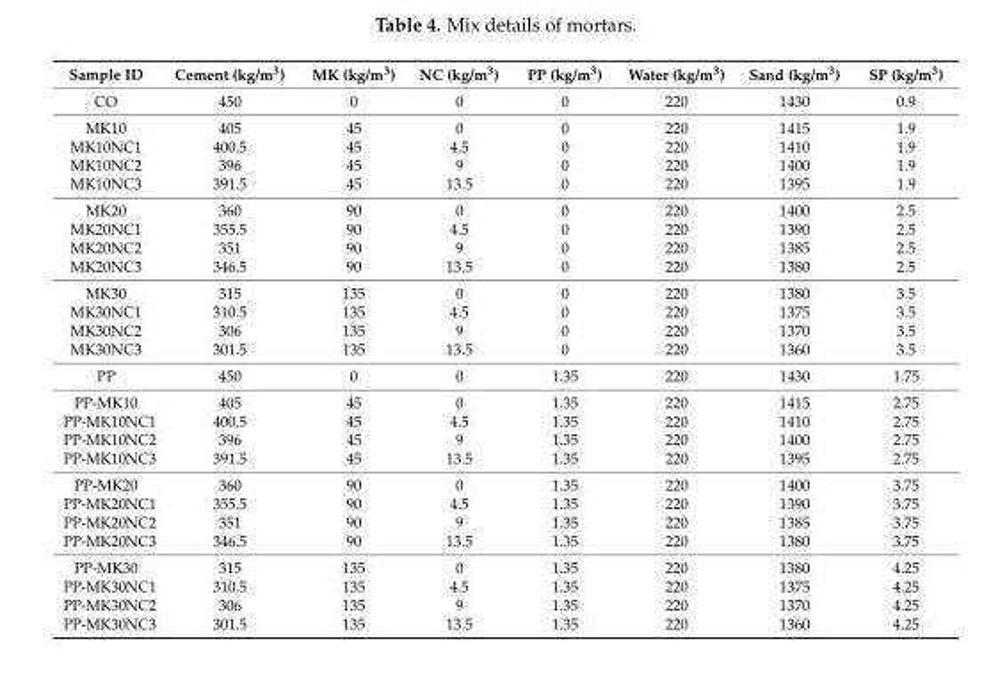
<table><thead><tr><td>Sample ID</td><td>Cement (kg/m<sup>3</sup>)</td><td>MK (kg/m<sup>3</sup>)</td><td>NC (kg/m<sup>3</sup>)</td><td>PP (kg/m<sup>3</sup>)</td><td>Water (kg/m<sup>3</sup>)</td><td>Sand (kg/m<sup>3</sup>)</td><td>SP (kg/m<sup>3</sup>)</td></tr></thead><tbody><tr><td>CO</td><td>450</td><td>0</td><td>0</td><td>0</td><td>220</td><td>1430</td><td>0.9</td></tr><tr><td>MK10</td><td>405</td><td>45</td><td>0</td><td>0</td><td>220</td><td>1415</td><td>1.9</td></tr><tr><td>MK10NC1</td><td>400.5</td><td>45</td><td>4.5</td><td>0</td><td>220</td><td>1410</td><td>1.9</td></tr><tr><td>MK10NC2</td><td>396</td><td>45</td><td>9</td><td>0</td><td>220</td><td>1400</td><td>1.9</td></tr><tr><td>MK10NC3</td><td>391.5</td><td>45</td><td>13.5</td><td>0</td><td>220</td><td>1395</td><td>1.9</td></tr><tr><td>MK20</td><td>360</td><td>90</td><td>0</td><td>0</td><td>220</td><td>1400</td><td>2.5</td></tr><tr><td>MK20NC1</td><td>355.5</td><td>90</td><td>4.5</td><td>0</td><td>220</td><td>1390</td><td>2.5</td></tr><tr><td>MK20NC2</td><td>351</td><td>90</td><td>9</td><td>0</td><td>220</td><td>1385</td><td>2.5</td></tr><tr><td>MK20NC3</td><td>346.5</td><td>90</td><td>13.5</td><td>0</td><td>220</td><td>1380</td><td>2.5</td></tr><tr><td>MK30</td><td>315</td><td>135</td><td>0</td><td>0</td><td>220</td><td>1380</td><td>3.5</td></tr><tr><td>MK30NC1</td><td>310.5</td><td>135</td><td>4.5</td><td>0</td><td>220</td><td>1375</td><td>3.5</td></tr><tr><td>MK30NC2</td><td>306</td><td>135</td><td>9</td><td>0</td><td>220</td><td>1370</td><td>3.5</td></tr><tr><td>MK30NC3</td><td>301.5</td><td>135</td><td>13.5</td><td>0</td><td>220</td><td>1360</td><td>3.5</td></tr><tr><td>PP</td><td>450</td><td>0</td><td>0</td><td>1.35</td><td>220</td><td>1430</td><td>1.75</td></tr><tr><td>PP-MK10</td><td>405</td><td>45</td><td>0</td><td>1.35</td><td>220</td><td>1415</td><td>2.75</td></tr><tr><td>PP-MK10NC1</td><td>400.5</td><td>45</td><td>4.5</td><td>1.35</td><td>220</td><td>1410</td><td>2.75</td></tr><tr><td>PP-MK10NC2</td><td>396</td><td>45</td><td>9</td><td>1.35</td><td>220</td><td>1400</td><td>2.75</td></tr><tr><td>PP-MK10NC3</td><td>391.5</td><td>45</td><td>13.5</td><td>1.35</td><td>220</td><td>1395</td><td>2.75</td></tr><tr><td>PP-MK20</td><td>360</td><td>90</td><td>0</td><td>1.35</td><td>220</td><td>1400</td><td>3.75</td></tr><tr><td>PP-MK20NC1</td><td>355.5</td><td>90</td><td>4.5</td><td>1.35</td><td>220</td><td>1390</td><td>3.75</td></tr><tr><td>PP-MK20NC2</td><td>351</td><td>90</td><td>9</td><td>1.35</td><td>220</td><td>1385</td><td>3.75</td></tr><tr><td>PP-MK20NC3</td><td>346.5</td><td>90</td><td>13.5</td><td>1.35</td><td>220</td><td>1380</td><td>3.75</td></tr><tr><td>PP-MK30</td><td>315</td><td>135</td><td>0</td><td>1.35</td><td>220</td><td>1380</td><td>4.25</td></tr><tr><td>PP-MK30NC1</td><td>310.5</td><td>135</td><td>4.5</td><td>1.35</td><td>220</td><td>1375</td><td>4.25</td></tr><tr><td>PP-MK30NC2</td><td>306</td><td>135</td><td>9</td><td>1.35</td><td>220</td><td>1370</td><td>4.25</td></tr><tr><td>PP-MK30NC3</td><td>301.5</td><td>135</td><td>13.5</td><td>1.35</td><td>220</td><td>1360</td><td>4.25</td></tr></tbody></table>